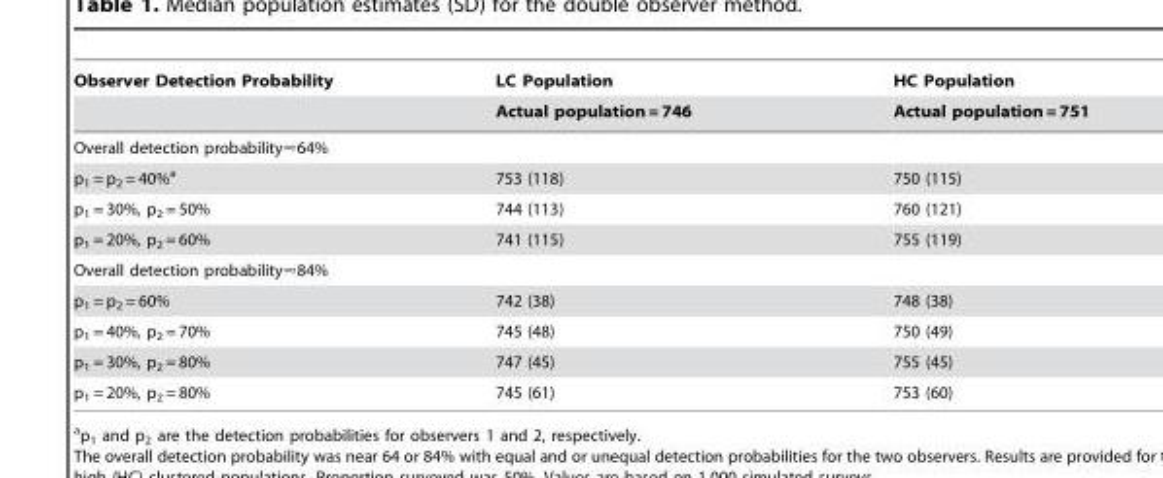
<table><thead><tr><td rowspan="2">Observer Detection Probability</td><td rowspan="2">LC Population Actual population = 746</td><td rowspan="2">HC Population Actual population = 751</td></tr><tr></tr></thead><tbody><tr><td colspan="3">Overall detection probability&lt;64%</td></tr><tr><td>p<sub>1</sub> = p<sub>2</sub> = 40%<sup>a</sup></td><td>753 (118)</td><td>750 (115)</td></tr><tr><td>p<sub>1</sub> = 30%, p<sub>2</sub> = 50%</td><td>744 (113)</td><td>760 (121)</td></tr><tr><td>p<sub>1</sub> = 20%, p<sub>2</sub> = 60%</td><td>741 (115)</td><td>755 (119)</td></tr><tr><td colspan="3">Overall detection probability&lt;84%</td></tr><tr><td>p<sub>1</sub> = p<sub>2</sub> = 60%</td><td>742 (38)</td><td>748 (38)</td></tr><tr><td>p<sub>1</sub> = 40%, p<sub>2</sub> = 70%</td><td>745 (48)</td><td>750 (49)</td></tr><tr><td>p<sub>1</sub> = 30%, p<sub>2</sub> = 80%</td><td>747 (45)</td><td>755 (45)</td></tr><tr><td>p<sub>1</sub> = 20%, p<sub>2</sub> = 80%</td><td>745 (61)</td><td>753 (60)</td></tr></tbody></table>